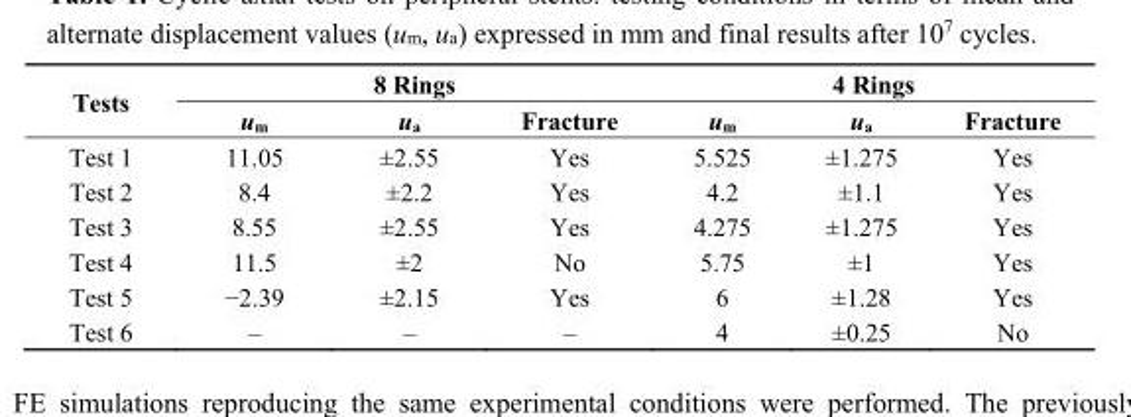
<table><thead><tr><td rowspan="2">Tests</td><td colspan="3">8 Rings</td><td colspan="3">4 Rings</td></tr><tr><td>u<sub>m</sub></td><td>u<sub>a</sub></td><td>Fracture</td><td>u<sub>m</sub></td><td>u<sub>a</sub></td><td>Fracture</td></tr></thead><tbody><tr><td>Test 1</td><td>11.05</td><td>±2.55</td><td>Yes</td><td>5.525</td><td>±1.275</td><td>Yes</td></tr><tr><td>Test 2</td><td>8.4</td><td>±2.2</td><td>Yes</td><td>4.2</td><td>±1.1</td><td>Yes</td></tr><tr><td>Test 3</td><td>8.55</td><td>±2.55</td><td>Yes</td><td>4.275</td><td>±1.275</td><td>Yes</td></tr><tr><td>Test 4</td><td>11.5</td><td>±2</td><td>No</td><td>5.75</td><td>±1</td><td>Yes</td></tr><tr><td>Test 5</td><td>−2.39</td><td>±2.15</td><td>Yes</td><td>6</td><td>±1.28</td><td>Yes</td></tr><tr><td>Test 6</td><td>–</td><td>–</td><td>–</td><td>4</td><td>±0.25</td><td>No</td></tr></tbody></table>